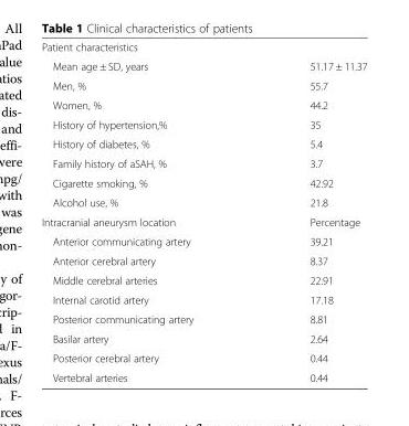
<table><tbody><tr><td colspan="2">Patient characteristics</td></tr><tr><td>Mean age ± SD, years</td><td>51.17 ± 11.37</td></tr><tr><td>Men, %</td><td>55.7</td></tr><tr><td>Women, %</td><td>44.2</td></tr><tr><td>History of hypertension,%</td><td>35</td></tr><tr><td>History of diabetes, %</td><td>5.4</td></tr><tr><td>Family history of aSAH, %</td><td>3.7</td></tr><tr><td>Cigarette smoking, %</td><td>42.92</td></tr><tr><td>Alcohol use, %</td><td>21.8</td></tr><tr><td>Intracranial aneurysm location</td><td>Percentage</td></tr><tr><td>Anterior communicating artery</td><td>39.21</td></tr><tr><td>Anterior cerebral artery</td><td>8.37</td></tr><tr><td>Middle cerebral arteries</td><td>22.91</td></tr><tr><td>Internal carotid artery</td><td>17.18</td></tr><tr><td>Posterior communicating artery</td><td>8.81</td></tr><tr><td>Basilar artery</td><td>2.64</td></tr><tr><td>Posterior cerebral artery</td><td>0.44</td></tr><tr><td>Vertebral arteries</td><td>0.44</td></tr></tbody></table>